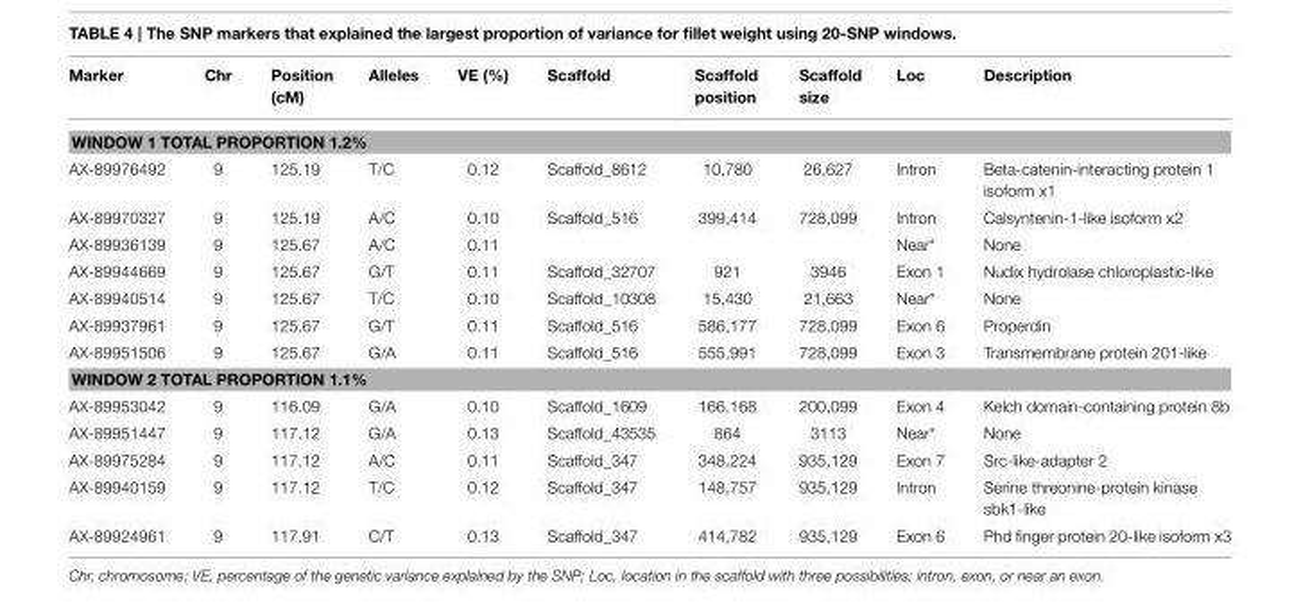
<table><thead><tr><td>Marker</td><td>Chr</td><td>Position (cM)</td><td>Alleles</td><td>VE (%)</td><td>Scaffold</td><td>Scaffold position</td><td>Scaffold size</td><td>Loc</td><td>Description</td></tr></thead><tbody><tr><td colspan="10">WINDOW 1 TOTAL PROPORTION 1.2%</td></tr><tr><td>AX-89976492</td><td>9</td><td>125.19</td><td>T/C</td><td>0.12</td><td>Scaffold_8612</td><td>10,780</td><td>26,627</td><td>Intron</td><td>Beta-catenin-interacting protein 1 isoform x1</td></tr><tr><td>AX-89970327</td><td>9</td><td>125.19</td><td>A/C</td><td>0.10</td><td>Scaffold_516</td><td>399,414</td><td>728,099</td><td>Intron</td><td>Calsyntenin-1-like isoform x2</td></tr><tr><td>AX-89936139</td><td>9</td><td>125.67</td><td>A/C</td><td>0.11</td><td></td><td></td><td></td><td>Near*</td><td>None</td></tr><tr><td>AX-89944669</td><td>9</td><td>125.67</td><td>G/T</td><td>0.11</td><td>Scaffold_32707</td><td>921</td><td>3946</td><td>Exon 1</td><td>Nudix hydrolase chloroplastic-like</td></tr><tr><td>AX-89940514</td><td>9</td><td>125.67</td><td>T/C</td><td>0.10</td><td>Scaffold_10308</td><td>15,430</td><td>21,663</td><td>Near*</td><td>None</td></tr><tr><td>AX-89937961</td><td>9</td><td>125.67</td><td>G/T</td><td>0.11</td><td>Scaffold_516</td><td>586,177</td><td>728,099</td><td>Exon 6</td><td>Properdin</td></tr><tr><td>AX-89951506</td><td>9</td><td>125.67</td><td>G/A</td><td>0.11</td><td>Scaffold_516</td><td>555,991</td><td>728,099</td><td>Exon 3</td><td>Transmembrane protein 201-like</td></tr><tr><td colspan="10">WINDOW 2 TOTAL PROPORTION 1.1%</td></tr><tr><td>AX-89953042</td><td>9</td><td>116.09</td><td>G/A</td><td>0.10</td><td>Scaffold_1609</td><td>166,168</td><td>200,099</td><td>Exon 4</td><td>Kelch domain-containing protein 8b</td></tr><tr><td>AX-89951447</td><td>9</td><td>117.12</td><td>G/A</td><td>0.13</td><td>Scaffold_43535</td><td>864</td><td>3113</td><td>Near*</td><td>None</td></tr><tr><td>AX-89975284</td><td>9</td><td>117.12</td><td>A/C</td><td>0.11</td><td>Scaffold_347</td><td>348,224</td><td>935,129</td><td>Exon 7</td><td>Src-like-adapter 2</td></tr><tr><td>AX-89940159</td><td>9</td><td>117.12</td><td>T/C</td><td>0.12</td><td>Scaffold_347</td><td>148,757</td><td>935,129</td><td>Intron</td><td>Serine threonine-protein kinase sbk1-like</td></tr><tr><td>AX-89924961</td><td>9</td><td>117.91</td><td>C/T</td><td>0.13</td><td>Scaffold_347</td><td>414,782</td><td>935,129</td><td>Exon 6</td><td>Phd finger protein 20-like isoform x3</td></tr></tbody></table>